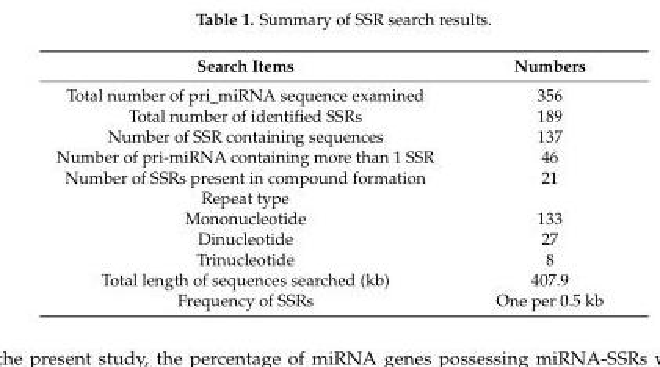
<table><thead><tr><td>Search Items</td><td>Numbers</td></tr></thead><tbody><tr><td>Total number of pri_miRNA sequence examined</td><td>356</td></tr><tr><td>Total number of identified SSRs</td><td>189</td></tr><tr><td>Number of SSR containing sequences</td><td>137</td></tr><tr><td>Number of pri-miRNA containing more than 1 SSR</td><td>46</td></tr><tr><td>Number of SSRs present in compound formation</td><td>21</td></tr><tr><td colspan="2">Repeat type</td></tr><tr><td>Mononucleotide</td><td>133</td></tr><tr><td>Dinucleotide</td><td>27</td></tr><tr><td>Trinucleotide</td><td>8</td></tr><tr><td>Total length of sequences searched (kb)</td><td>407.9</td></tr><tr><td>Frequency of SSRs</td><td>One per 0.5 kb</td></tr></tbody></table>